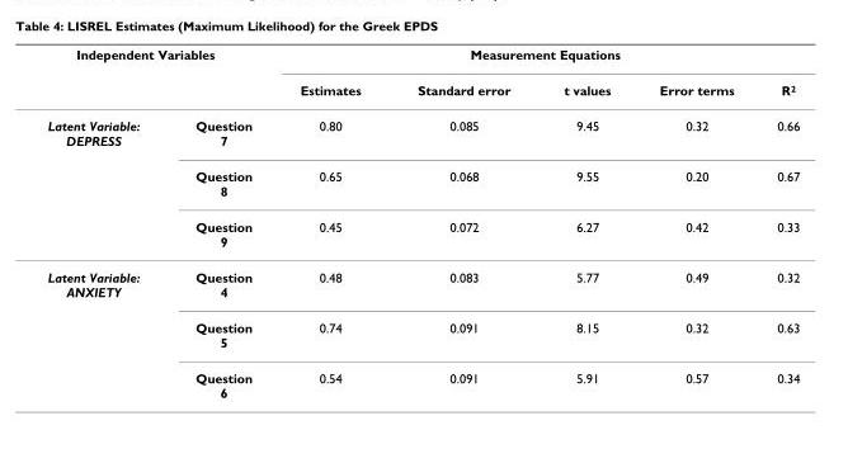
<table><thead><tr><td colspan="2">Independent Variables</td><td colspan="5">Measurement Equations</td></tr><tr><td></td><td></td><td>Estimates</td><td>Standard error</td><td>t values</td><td>Error terms</td><td>R<sup>2</sup></td></tr></thead><tbody><tr><td rowspan="3">Latent Variable: DEPRESS</td><td>Question 7</td><td>0.80</td><td>0.085</td><td>9.45</td><td>0.32</td><td>0.66</td></tr><tr><td>Question 8</td><td>0.65</td><td>0.068</td><td>9.55</td><td>0.20</td><td>0.67</td></tr><tr><td>Question 9</td><td>0.45</td><td>0.072</td><td>6.27</td><td>0.42</td><td>0.33</td></tr><tr><td rowspan="3">Latent Variable: ANXIETY</td><td>Question 4</td><td>0.48</td><td>0.083</td><td>5.77</td><td>0.49</td><td>0.32</td></tr><tr><td>Question 5</td><td>0.74</td><td>0.091</td><td>8.15</td><td>0.32</td><td>0.63</td></tr><tr><td>Question 6</td><td>0.54</td><td>0.091</td><td>5.91</td><td>0.57</td><td>0.34</td></tr></tbody></table>